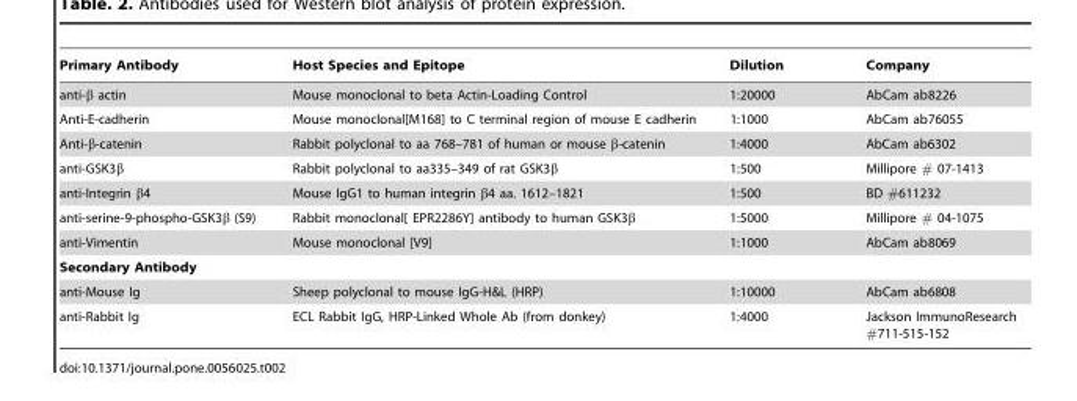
<table><thead><tr><td>Primary Antibody</td><td>Host Species and Epitope</td><td>Dilution</td><td>Company</td></tr></thead><tbody><tr><td>anti-β actin</td><td>Mouse monoclonal to beta Actin-Loading Control</td><td>1:20000</td><td>AbCam ab8226</td></tr><tr><td>Anti-E-cadherin</td><td>Mouse monoclonal[M168] to C terminal region of mouse E cadherin</td><td>1:1000</td><td>AbCam ab76055</td></tr><tr><td>Anti-β-catenin</td><td>Rabbit polyclonal to aa 768–781 of human or mouse β-catenin</td><td>1:4000</td><td>AbCam ab6302</td></tr><tr><td>anti-GSK3β</td><td>Rabbit polyclonal to aa335–349 of rat GSK3β</td><td>1:500</td><td>Millipore # 07-1413</td></tr><tr><td>anti-Integrin β4</td><td>Mouse IgG1 to human integrin β4 aa. 1612–1821</td><td>1:500</td><td>BD #611232</td></tr><tr><td>anti-serine-9-phospho-GSK3β (S9)</td><td>Rabbit monoclonal[ EPR2286Y] antibody to human GSK3β</td><td>1:5000</td><td>Millipore # 04-1075</td></tr><tr><td>anti-Vimentin</td><td>Mouse monoclonal [V9]</td><td>1:1000</td><td>AbCam ab8069</td></tr><tr><td colspan="4">Secondary Antibody</td></tr><tr><td>anti-Mouse Ig</td><td>Sheep polyclonal to mouse IgG-H&amp;L (HRP)</td><td>1:10000</td><td>AbCam ab6808</td></tr><tr><td>anti-Rabbit Ig</td><td>ECL Rabbit IgG, HRP-Linked Whole Ab (from donkey)</td><td>1:4000</td><td>Jackson ImmunoResearch #711-515-152</td></tr></tbody></table>